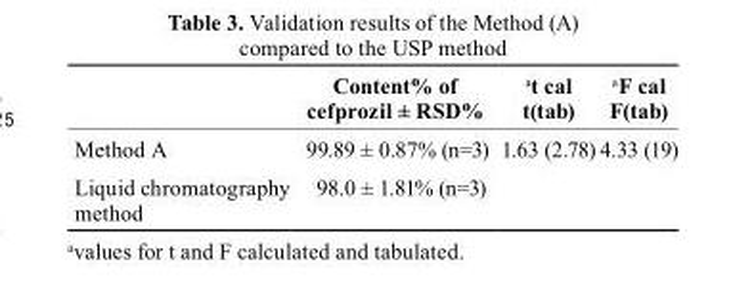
<table><thead><tr><td></td><td>content% of cefprozil ± rSD%</td><td>at cal t(tab)</td><td>aF cal F(tab)</td></tr></thead><tbody><tr><td>Method A</td><td>99.89 ± 0.87% (n=3)</td><td>1.63 (2.78)</td><td>4.33 (19)</td></tr><tr><td>Liquid chromatography method</td><td>98.0 ± 1.81% (n=3)</td><td></td><td></td></tr></tbody></table>